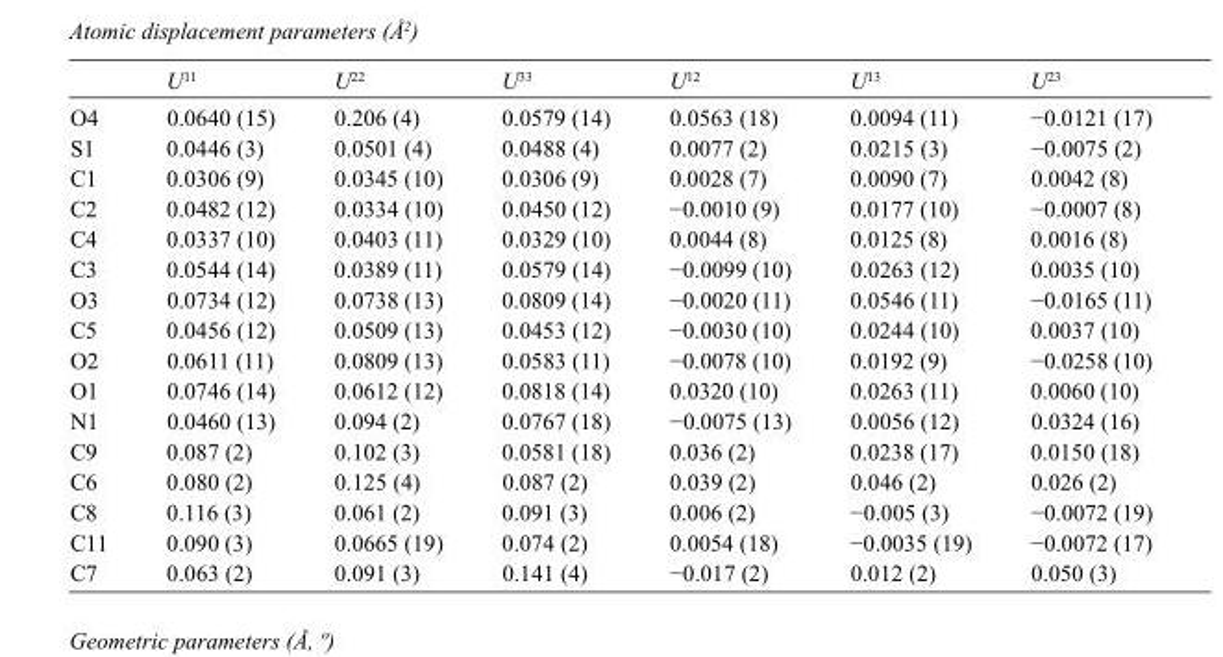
<table><thead><tr><td></td><td>U<sup>11</sup></td><td>U<sup>22</sup></td><td>U<sup>33</sup></td><td>U<sup>12</sup></td><td>U<sup>13</sup></td><td>U<sup>23</sup></td></tr></thead><tbody><tr><td>O4</td><td>0.0640 (15)</td><td>0.206 (4)</td><td>0.0579 (14)</td><td>0.0563 (18)</td><td>0.0094 (11)</td><td>−0.0121 (17)</td></tr><tr><td>S1</td><td>0.0446 (3)</td><td>0.0501 (4)</td><td>0.0488 (4)</td><td>0.0077 (2)</td><td>0.0215 (3)</td><td>−0.0075 (2)</td></tr><tr><td>C1</td><td>0.0306 (9)</td><td>0.0345 (10)</td><td>0.0306 (9)</td><td>0.0028 (7)</td><td>0.0090 (7)</td><td>0.0042 (8)</td></tr><tr><td>C2</td><td>0.0482 (12)</td><td>0.0334 (10)</td><td>0.0450 (12)</td><td>−0.0010 (9)</td><td>0.0177 (10)</td><td>−0.0007 (8)</td></tr><tr><td>C4</td><td>0.0337 (10)</td><td>0.0403 (11)</td><td>0.0329 (10)</td><td>0.0044 (8)</td><td>0.0125 (8)</td><td>0.0016 (8)</td></tr><tr><td>C3</td><td>0.0544 (14)</td><td>0.0389 (11)</td><td>0.0579 (14)</td><td>−0.0099 (10)</td><td>0.0263 (12)</td><td>0.0035 (10)</td></tr><tr><td>O3</td><td>0.0734 (12)</td><td>0.0738 (13)</td><td>0.0809 (14)</td><td>−0.0020 (11)</td><td>0.0546 (11)</td><td>−0.0165 (11)</td></tr><tr><td>C5</td><td>0.0456 (12)</td><td>0.0509 (13)</td><td>0.0453 (12)</td><td>−0.0030 (10)</td><td>0.0244 (10)</td><td>0.0037 (10)</td></tr><tr><td>O2</td><td>0.0611 (11)</td><td>0.0809 (13)</td><td>0.0583 (11)</td><td>−0.0078 (10)</td><td>0.0192 (9)</td><td>−0.0258 (10)</td></tr><tr><td>O1</td><td>0.0746 (14)</td><td>0.0612 (12)</td><td>0.0818 (14)</td><td>0.0320 (10)</td><td>0.0263 (11)</td><td>0.0060 (10)</td></tr><tr><td>N1</td><td>0.0460 (13)</td><td>0.094 (2)</td><td>0.0767 (18)</td><td>−0.0075 (13)</td><td>0.0056 (12)</td><td>0.0324 (16)</td></tr><tr><td>C9</td><td>0.087 (2)</td><td>0.102 (3)</td><td>0.0581 (18)</td><td>0.036 (2)</td><td>0.0238 (17)</td><td>0.0150 (18)</td></tr><tr><td>C6</td><td>0.080 (2)</td><td>0.125 (4)</td><td>0.087 (2)</td><td>0.039 (2)</td><td>0.046 (2)</td><td>0.026 (2)</td></tr><tr><td>C8</td><td>0.116 (3)</td><td>0.061 (2)</td><td>0.091 (3)</td><td>0.006 (2)</td><td>−0.005 (3)</td><td>−0.0072 (19)</td></tr><tr><td>C11</td><td>0.090 (3)</td><td>0.0665 (19)</td><td>0.074 (2)</td><td>0.0054 (18)</td><td>−0.0035 (19)</td><td>−0.0072 (17)</td></tr><tr><td>C7</td><td>0.063 (2)</td><td>0.091 (3)</td><td>0.141 (4)</td><td>−0.017 (2)</td><td>0.012 (2)</td><td>0.050 (3)</td></tr></tbody></table>